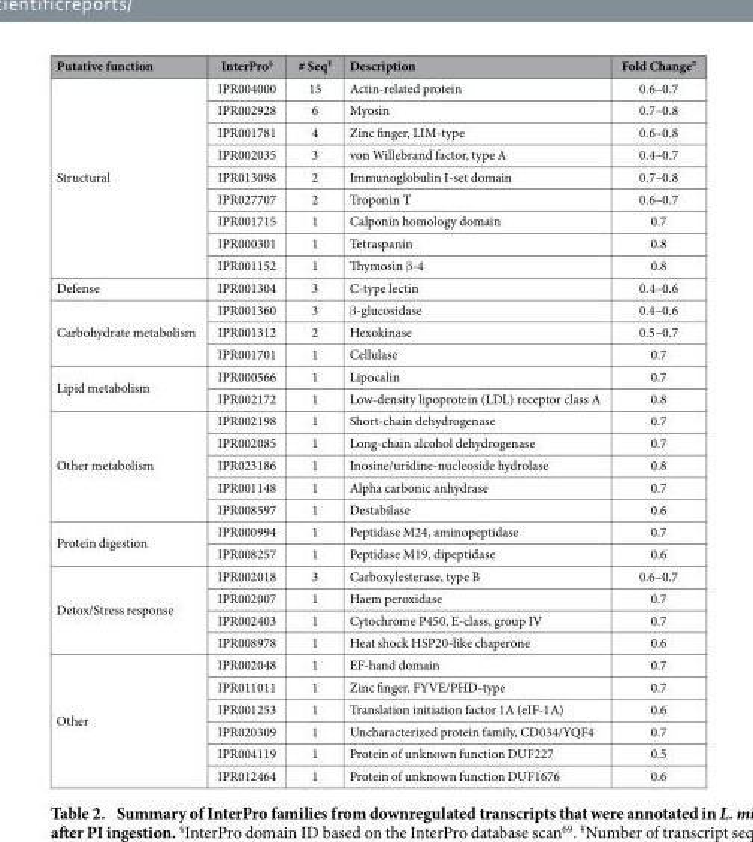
<table><thead><tr><td>Putative function</td><td>InterPro§</td><td># Seq¥</td><td>Description</td><td>Fold Change¤</td></tr></thead><tbody><tr><td rowspan="9">Structural</td><td>IPR004000</td><td>15</td><td>Actin-related protein</td><td>0.6–0.7</td></tr><tr><td>IPR002928</td><td>6</td><td>Myosin</td><td>0.7–0.8</td></tr><tr><td>IPR001781</td><td>4</td><td>Zinc finger, LIM-type</td><td>0.6–0.8</td></tr><tr><td>IPR002035</td><td>3</td><td>von Willebrand factor, type A</td><td>0.4–0.7</td></tr><tr><td>IPR013098</td><td>2</td><td>Immunoglobulin I-set domain</td><td>0.7–0.8</td></tr><tr><td>IPR027707</td><td>2</td><td>Troponin T</td><td>0.6–0.7</td></tr><tr><td>IPR001715</td><td>1</td><td>Calponin homology domain</td><td>0.7</td></tr><tr><td>IPR000301</td><td>1</td><td>Tetraspanin</td><td>0.8</td></tr><tr><td>IPR001152</td><td>1</td><td>Thymosin β -4</td><td>0.8</td></tr><tr><td>Defense</td><td>IPR001304</td><td>3</td><td>C-type lectin</td><td>0.4–0.6</td></tr><tr><td rowspan="3">Carbohydrate metabolism</td><td>IPR001360</td><td>3</td><td>β -glucosidase</td><td>0.4–0.6</td></tr><tr><td>IPR001312</td><td>2</td><td>Hexokinase</td><td>0.5–0.7</td></tr><tr><td>IPR001701</td><td>1</td><td>Cellulase</td><td>0.7</td></tr><tr><td rowspan="2">Lipid metabolism</td><td>IPR000566</td><td>1</td><td>Lipocalin</td><td>0.7</td></tr><tr><td>IPR002172</td><td>1</td><td>Low-density lipoprotein (LDL) receptor class A</td><td>0.8</td></tr><tr><td rowspan="5">Other metabolism</td><td>IPR002198</td><td>1</td><td>Short-chain dehydrogenase</td><td>0.7</td></tr><tr><td>IPR002085</td><td>1</td><td>Long-chain alcohol dehydrogenase</td><td>0.7</td></tr><tr><td>IPR023186</td><td>1</td><td>Inosine/uridine-nucleoside hydrolase</td><td>0.8</td></tr><tr><td>IPR001148</td><td>1</td><td>Alpha carbonic anhydrase</td><td>0.7</td></tr><tr><td>IPR008597</td><td>1</td><td>Destabilase</td><td>0.6</td></tr><tr><td rowspan="2">Protein digestion</td><td>IPR000994</td><td>1</td><td>Peptidase M24, aminopeptidase</td><td>0.7</td></tr><tr><td>IPR008257</td><td>1</td><td>Peptidase M19, dipeptidase</td><td>0.6</td></tr><tr><td rowspan="4">Detox/Stress response</td><td>IPR002018</td><td>3</td><td>Carboxylesterase, type B</td><td>0.6–0.7</td></tr><tr><td>IPR002007</td><td>1</td><td>Haem peroxidase</td><td>0.7</td></tr><tr><td>IPR002403</td><td>1</td><td>Cytochrome P450, E-class, group IV</td><td>0.7</td></tr><tr><td>IPR008978</td><td>1</td><td>Heat shock HSP20-like chaperone</td><td>0.6</td></tr><tr><td rowspan="6">Other</td><td>IPR002048</td><td>1</td><td>EF-hand domain</td><td>0.7</td></tr><tr><td>IPR011011</td><td>1</td><td>Zinc finger, FYVE/PHD-type</td><td>0.7</td></tr><tr><td>IPR001253</td><td>1</td><td>Translation initiation factor 1A (eIF-1A)</td><td>0.6</td></tr><tr><td>IPR020309</td><td>1</td><td>Uncharacterized protein family, CD034/YQF4</td><td>0.7</td></tr><tr><td>IPR004119</td><td>1</td><td>Protein of unknown function DUF227</td><td>0.5</td></tr><tr><td>IPR012464</td><td>1</td><td>Protein of unknown function DUF1676</td><td>0.6</td></tr></tbody></table>